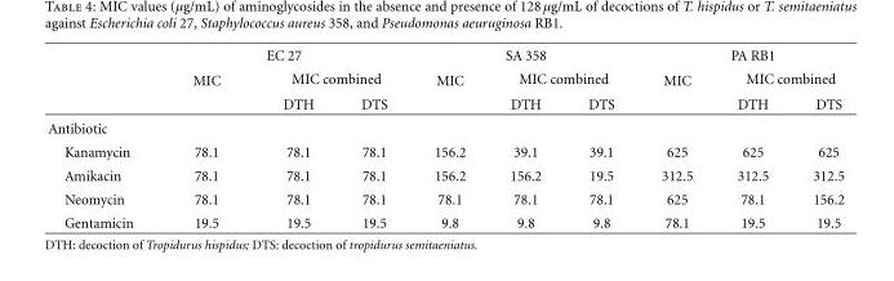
<table><thead><tr><td rowspan="3"></td><td colspan="3">EC 27</td><td colspan="3">SA 358</td><td colspan="3">PA RB1</td></tr><tr><td rowspan="2">MIC</td><td colspan="2">MIC combined</td><td rowspan="2">MIC</td><td colspan="2">MIC combined</td><td rowspan="2">MIC</td><td colspan="2">MIC combined</td></tr><tr><td>DTH</td><td>DTS</td><td>DTH</td><td>DTS</td><td>DTH</td><td>DTS</td></tr></thead><tbody><tr><td colspan="10">Antibiotic</td></tr><tr><td>Kanamycin</td><td>78.1</td><td>78.1</td><td>78.1</td><td>156.2</td><td>39.1</td><td>39.1</td><td>625</td><td>625</td><td>625</td></tr><tr><td>Amikacin</td><td>78.1</td><td>78.1</td><td>78.1</td><td>156.2</td><td>156.2</td><td>19.5</td><td>312.5</td><td>312.5</td><td>312.5</td></tr><tr><td>Neomycin</td><td>78.1</td><td>78.1</td><td>78.1</td><td>78.1</td><td>78.1</td><td>78.1</td><td>625</td><td>78.1</td><td>156.2</td></tr><tr><td>Gentamicin</td><td>19.5</td><td>19.5</td><td>19.5</td><td>9.8</td><td>9.8</td><td>9.8</td><td>78.1</td><td>19.5</td><td>19.5</td></tr></tbody></table>